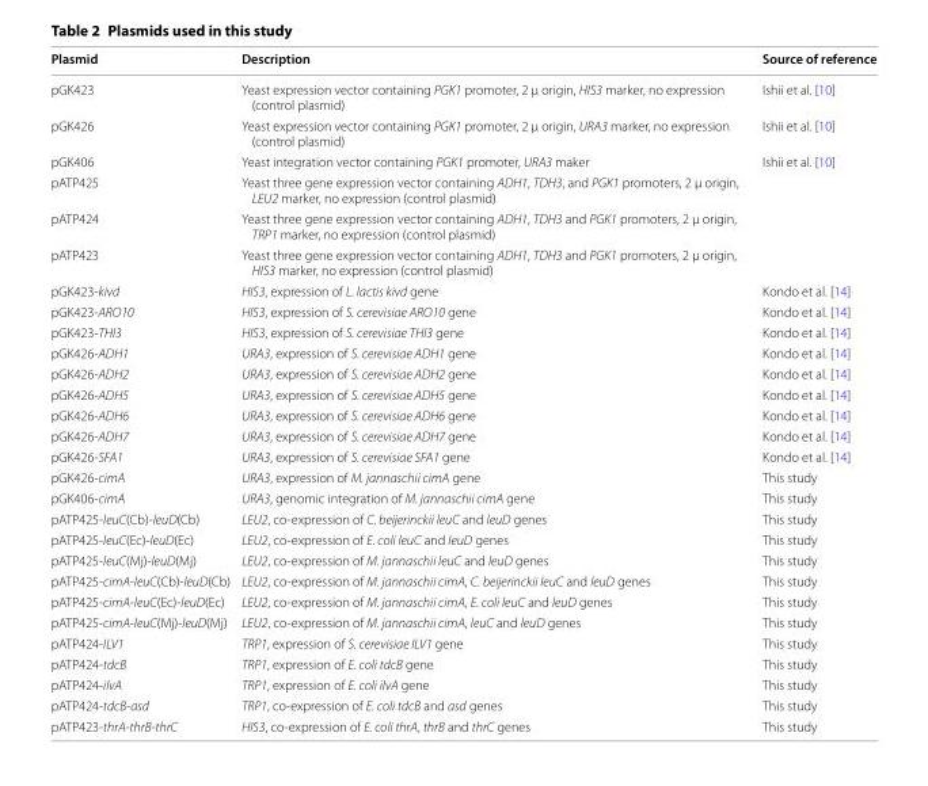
<table><thead><tr><td>Plasmid</td><td>Description</td><td>Source of reference</td></tr></thead><tbody><tr><td>pGK423</td><td>Yeast expression vector containing PGK1 promoter, 2 μ origin, HIS3 marker, no expression (control plasmid)</td><td>Ishii et al. [10]</td></tr><tr><td>pGK426</td><td>Yeast expression vector containing PGK1 promoter, 2 μ origin, URA3 marker, no expression (control plasmid)</td><td>Ishii et al. [10]</td></tr><tr><td>pGK406</td><td>Yeast integration vector containing PGK1 promoter, URA3 maker</td><td>Ishii et al. [10]</td></tr><tr><td>pATP425</td><td>Yeast three gene expression vector containing ADH1, TDH3, and PGK1 promoters, 2 μ origin, LEU2 marker, no expression (control plasmid)</td><td></td></tr><tr><td>pATP424</td><td>Yeast three gene expression vector containing ADH1, TDH3 and PGK1 promoters, 2 μ origin, TRP1 marker, no expression (control plasmid)</td><td></td></tr><tr><td>pATP423</td><td>Yeast three gene expression vector containing ADH1, TDH3 and PGK1 promoters, 2 μ origin, HIS3 marker, no expression (control plasmid)</td><td></td></tr><tr><td>pGK423-kivd</td><td>HIS3, expression of L. lactis kivd gene</td><td>Kondo et al. [14]</td></tr><tr><td>pGK423-ARO10</td><td>HIS3, expression of S. cerevisiae ARO10 gene</td><td>Kondo et al. [14]</td></tr><tr><td>pGK423-THI3</td><td>HIS3, expression of S. cerevisiae THI3 gene</td><td>Kondo et al. [14]</td></tr><tr><td>pGK426-ADH1</td><td>URA3, expression of S. cerevisiae ADH1 gene</td><td>Kondo et al. [14]</td></tr><tr><td>pGK426-ADH2</td><td>URA3, expression of S. cerevisiae ADH2 gene</td><td>Kondo et al. [14]</td></tr><tr><td>pGK426-ADH5</td><td>URA3, expression of S. cerevisiae ADH5 gene</td><td>Kondo et al. [14]</td></tr><tr><td>pGK426-ADH6</td><td>URA3, expression of S. cerevisiae ADH6 gene</td><td>Kondo et al. [14]</td></tr><tr><td>pGK426-ADH7</td><td>URA3, expression of S. cerevisiae ADH7 gene</td><td>Kondo et al. [14]</td></tr><tr><td>pGK426-SFA1</td><td>URA3, expression of S. cerevisiae SFA1 gene</td><td>Kondo et al. [14]</td></tr><tr><td>pGK426-cimA</td><td>URA3, expression of M. jannaschii cimA gene</td><td>This study</td></tr><tr><td>pGK406-cimA</td><td>URA3, genomic integration of M. jannaschii cimA gene</td><td>This study</td></tr><tr><td>pATP425-leuC(Cb)-leuD(Cb)</td><td>LEU2, co-expression of C. beijerinckii leuC and leuD genes</td><td>This study</td></tr><tr><td>pATP425-leuC(Ec)-leuD(Ec)</td><td>LEU2, co-expression of E. coli leuC and leuD genes</td><td>This study</td></tr><tr><td>pATP425-leuC(Mj)-leuD(Mj)</td><td>LEU2, co-expression of M. jannaschii leuC and leuD genes</td><td>This study</td></tr><tr><td>pATP425-cimA-leuC(Cb)-leuD(Cb)</td><td>LEU2, co-expression of M. jannaschii cimA, C. beijerinckii leuC and leuD genes</td><td>This study</td></tr><tr><td>pATP425-cimA-leuC(Ec)-leuD(Ec)</td><td>LEU2, co-expression of M. jannaschii cimA, E. coli leuC and leuD genes</td><td>This study</td></tr><tr><td>pATP425-cimA-leuC(Mj)-leuD(Mj)</td><td>LEU2, co-expression of M. jannaschii cimA, leuC and leuD genes</td><td>This study</td></tr><tr><td>pATP424-ILV1</td><td>TRP1, expression of S. cerevisiae ILV1 gene</td><td>This study</td></tr><tr><td>pATP424-tdcB</td><td>TRP1, expression of E. coli tdcB gene</td><td>This study</td></tr><tr><td>pATP424-ilvA</td><td>TRP1, expression of E. coli ilvA gene</td><td>This study</td></tr><tr><td>pATP424-tdcB-asd</td><td>TRP1, co-expression of E. coli tdcB and asd genes</td><td>This study</td></tr><tr><td>pATP423-thrA-thrB-thrC</td><td>HIS3, co-expression of E. coli thrA, thrB and thrC genes</td><td>This study</td></tr></tbody></table>